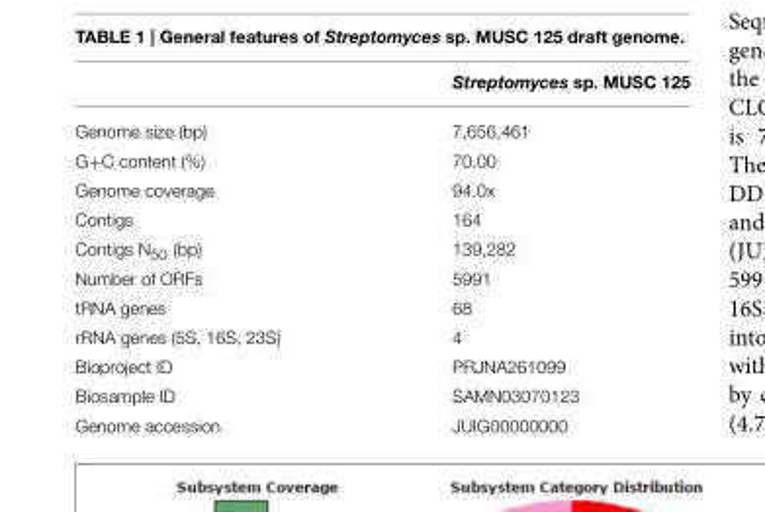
<table><thead><tr><td></td><td>Streptomyces sp. MUSC 125</td></tr></thead><tbody><tr><td>Genome size (bp)</td><td>7,656,461</td></tr><tr><td>G+C content (%)</td><td>70.00</td></tr><tr><td>Genome coverage</td><td>94.0x</td></tr><tr><td>Contigs</td><td>164</td></tr><tr><td>Contigs N<sub>50</sub> (bp)</td><td>139,282</td></tr><tr><td>Number of ORFs</td><td>5991</td></tr><tr><td>tRNA genes</td><td>68</td></tr><tr><td>rRNA genes (5S, 16S, 23S)</td><td>4</td></tr><tr><td>Bioproject ID</td><td>PRJNA261099</td></tr><tr><td>Biosample ID</td><td>SAMN03070123</td></tr><tr><td>Genome accession</td><td>JUIG00000000</td></tr></tbody></table>